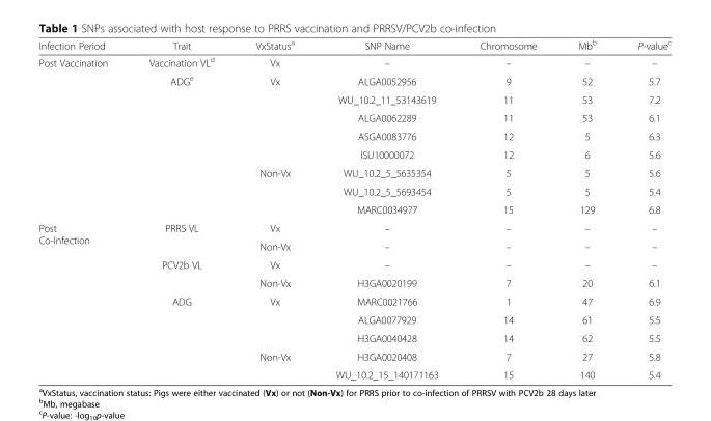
<table><thead><tr><td>Infection Period</td><td>Trait</td><td>VxStatus<sup>a</sup></td><td>SNP Name</td><td>Chromosome</td><td>Mb<sup>b</sup></td><td>P-value<sup>c</sup></td></tr></thead><tbody><tr><td rowspan="9">Post Vaccination</td><td>Vaccination VL<sup>d</sup></td><td>Vx</td><td>–</td><td>–</td><td>–</td><td>–</td></tr><tr><td rowspan="8">ADG<sup>e</sup></td><td rowspan="5">Vx</td><td>ALGA0052956</td><td>9</td><td>52</td><td>5.7</td></tr><tr><td>WU_10.2_11_53143619</td><td>11</td><td>53</td><td>7.2</td></tr><tr><td>ALGA0062289</td><td>11</td><td>53</td><td>6.1</td></tr><tr><td>ASGA0083776</td><td>12</td><td>5</td><td>6.3</td></tr><tr><td>ISU10000072</td><td>12</td><td>6</td><td>5.6</td></tr><tr><td rowspan="3">Non-Vx</td><td>WU_10.2_5_5635354</td><td>5</td><td>5</td><td>5.6</td></tr><tr><td>WU_10.2_5_5693454</td><td>5</td><td>5</td><td>5.4</td></tr><tr><td>MARC0034977</td><td>15</td><td>129</td><td>6.8</td></tr><tr><td rowspan="9">Post Co-Infection</td><td rowspan="2">PRRS VL</td><td>Vx</td><td>–</td><td>–</td><td>–</td><td>–</td></tr><tr><td>Non-Vx</td><td>–</td><td>–</td><td>–</td><td>–</td></tr><tr><td rowspan="2">PCV2b VL</td><td>Vx</td><td>–</td><td>–</td><td>–</td><td>–</td></tr><tr><td>Non-Vx</td><td>H3GA0020199</td><td>7</td><td>20</td><td>6.1</td></tr><tr><td rowspan="5">ADG</td><td rowspan="3">Vx</td><td>MARC0021766</td><td>1</td><td>47</td><td>6.9</td></tr><tr><td>ALGA0077929</td><td>14</td><td>61</td><td>5.5</td></tr><tr><td>H3GA0040428</td><td>14</td><td>62</td><td>5.5</td></tr><tr><td rowspan="2">Non-Vx</td><td>H3GA0020408</td><td>7</td><td>27</td><td>5.8</td></tr><tr><td>WU_10.2_15_140171163</td><td>15</td><td>140</td><td>5.4</td></tr></tbody></table>